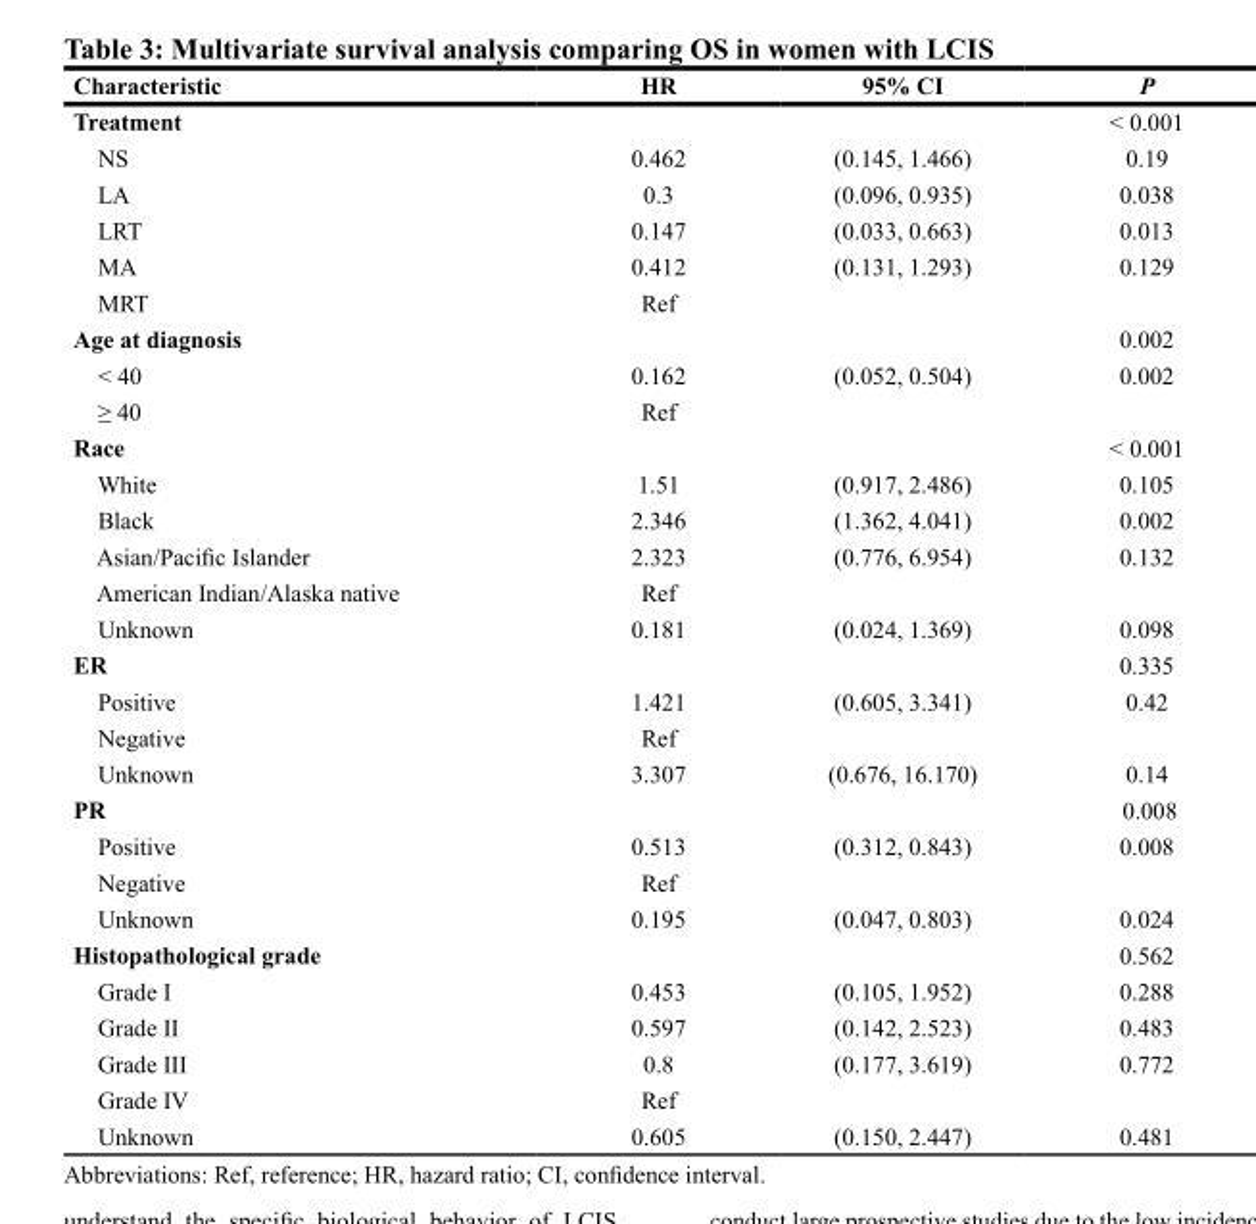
<table><thead><tr><td>Characteristic</td><td>HR</td><td>95% CI</td><td>P</td></tr></thead><tbody><tr><td>Treatment</td><td></td><td></td><td>&lt; 0.001</td></tr><tr><td>NS</td><td>0.462</td><td>(0.145, 1.466)</td><td>0.19</td></tr><tr><td>LA</td><td>0.3</td><td>(0.096, 0.935)</td><td>0.038</td></tr><tr><td>LRT</td><td>0.147</td><td>(0.033, 0.663)</td><td>0.013</td></tr><tr><td>MA</td><td>0.412</td><td>(0.131, 1.293)</td><td>0.129</td></tr><tr><td>MRT</td><td>Ref</td><td></td><td></td></tr><tr><td>Age at diagnosis</td><td></td><td></td><td>0.002</td></tr><tr><td>&lt; 40</td><td>0.162</td><td>(0.052, 0.504)</td><td>0.002</td></tr><tr><td>≥ 40</td><td>Ref</td><td></td><td></td></tr><tr><td>Race</td><td></td><td></td><td>&lt; 0.001</td></tr><tr><td>White</td><td>1.51</td><td>(0.917, 2.486)</td><td>0.105</td></tr><tr><td>Black</td><td>2.346</td><td>(1.362, 4.041)</td><td>0.002</td></tr><tr><td>Asian/Pacific Islander</td><td>2.323</td><td>(0.776, 6.954)</td><td>0.132</td></tr><tr><td>American Indian/Alaska native</td><td>Ref</td><td></td><td></td></tr><tr><td>Unknown</td><td>0.181</td><td>(0.024, 1.369)</td><td>0.098</td></tr><tr><td>ER</td><td></td><td></td><td>0.335</td></tr><tr><td>Positive</td><td>1.421</td><td>(0.605, 3.341)</td><td>0.42</td></tr><tr><td>Negative</td><td>Ref</td><td></td><td></td></tr><tr><td>Unknown</td><td>3.307</td><td>(0.676, 16.170)</td><td>0.14</td></tr><tr><td>PR</td><td></td><td></td><td>0.008</td></tr><tr><td>Positive</td><td>0.513</td><td>(0.312, 0.843)</td><td>0.008</td></tr><tr><td>Negative</td><td>Ref</td><td></td><td></td></tr><tr><td>Unknown</td><td>0.195</td><td>(0.047, 0.803)</td><td>0.024</td></tr><tr><td>Histopathological grade</td><td></td><td></td><td>0.562</td></tr><tr><td>Grade I</td><td>0.453</td><td>(0.105, 1.952)</td><td>0.288</td></tr><tr><td>Grade II</td><td>0.597</td><td>(0.142, 2.523)</td><td>0.483</td></tr><tr><td>Grade III</td><td>0.8</td><td>(0.177, 3.619)</td><td>0.772</td></tr><tr><td>Grade IV</td><td>Ref</td><td></td><td></td></tr><tr><td>Unknown</td><td>0.605</td><td>(0.150, 2.447)</td><td>0.481</td></tr></tbody></table>